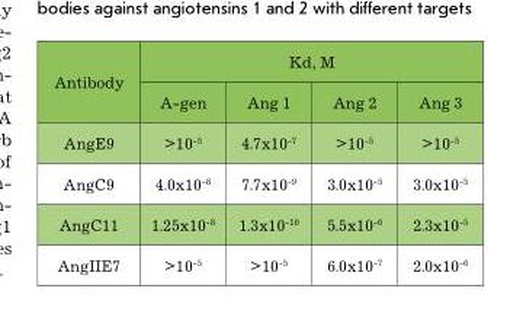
<table><thead><tr><td rowspan="2">Antibody</td><td colspan="4">Kd, M</td></tr><tr><td>A-gen</td><td>Аng 1</td><td>Аng 2</td><td>Аng 3</td></tr></thead><tbody><tr><td>Ange9</td><td>&gt;10<sup>-5</sup></td><td>4.7х10<sup>-7</sup></td><td>&gt;10<sup>-5</sup></td><td>&gt;10<sup>-5</sup></td></tr><tr><td>Angc9</td><td>4.0х10<sup>-8</sup></td><td>7.7х10<sup>-9</sup></td><td>3.0х10<sup>-5</sup></td><td>3.0х10<sup>-5</sup></td></tr><tr><td>Angc11</td><td>1.25х10<sup>-8</sup></td><td>1.3х10<sup>-10</sup></td><td>5.5х10<sup>-6</sup></td><td>2.3х10<sup>-5</sup></td></tr><tr><td>AngIIe7</td><td>&gt;10<sup>-5</sup></td><td>&gt;10<sup>-5</sup></td><td>6.0х10<sup>-7</sup></td><td>2.0х10<sup>-6</sup></td></tr></tbody></table>